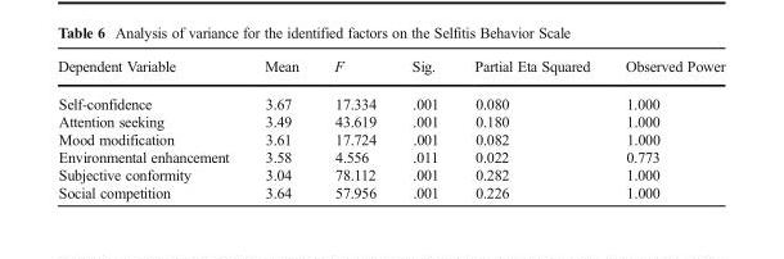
<table><thead><tr><td>Dependent Variable</td><td>Mean</td><td>F</td><td>Sig.</td><td>Partial Eta Squared</td><td>Observed Power</td></tr></thead><tbody><tr><td>Self-confidence</td><td>3.67</td><td>17.334</td><td>.001</td><td>0.080</td><td>1.000</td></tr><tr><td>Attention seeking</td><td>3.49</td><td>43.619</td><td>.001</td><td>0.180</td><td>1.000</td></tr><tr><td>Mood modification</td><td>3.61</td><td>17.724</td><td>.001</td><td>0.082</td><td>1.000</td></tr><tr><td>Environmental enhancement</td><td>3.58</td><td>4.556</td><td>.011</td><td>0.022</td><td>0.773</td></tr><tr><td>Subjective conformity</td><td>3.04</td><td>78.112</td><td>.001</td><td>0.282</td><td>1.000</td></tr><tr><td>Social competition</td><td>3.64</td><td>57.956</td><td>.001</td><td>0.226</td><td>1.000</td></tr></tbody></table>